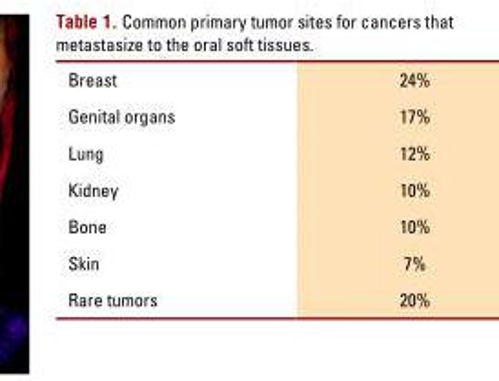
<table><tbody><tr><td>Breast</td><td>24%</td></tr><tr><td>Genital organs</td><td>17%</td></tr><tr><td>Lung</td><td>12%</td></tr><tr><td>Kidney</td><td>10%</td></tr><tr><td>Bone</td><td>10%</td></tr><tr><td>Skin</td><td>7%</td></tr><tr><td>Rare tumors</td><td>20%</td></tr></tbody></table>